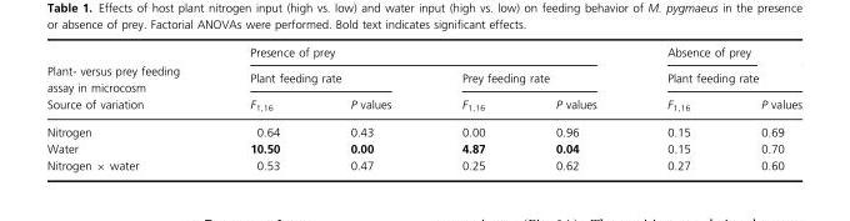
<table><thead><tr><td rowspan="3">Plant- versus prey feeding assay in microcosm Source of variation</td><td colspan="4">Presence of prey</td><td rowspan="2" colspan="2">Absence of prey Plant feeding rate</td></tr><tr><td colspan="2">Plant feeding rate</td><td colspan="2">Prey feeding rate</td></tr><tr><td>F<sub>1,16</sub></td><td>P values</td><td>F<sub>1,16</sub></td><td>P values</td><td>F<sub>1,16</sub></td><td>P values</td></tr></thead><tbody><tr><td>Nitrogen</td><td>0.64</td><td>0.43</td><td>0.00</td><td>0.96</td><td>0.15</td><td>0.69</td></tr><tr><td>Water</td><td>10.50</td><td>0.00</td><td>4.87</td><td>0.04</td><td>0.15</td><td>0.70</td></tr><tr><td>Nitrogen × water</td><td>0.53</td><td>0.47</td><td>0.25</td><td>0.62</td><td>0.27</td><td>0.60</td></tr></tbody></table>